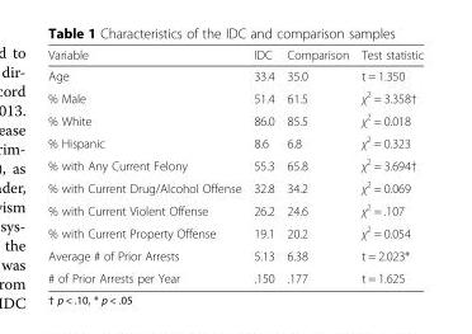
<table><thead><tr><td>Variable</td><td>IDC</td><td>Comparison</td><td>Test statistic</td></tr></thead><tbody><tr><td>Age</td><td>33.4</td><td>35.0</td><td>t = 1.350</td></tr><tr><td>% Male</td><td>51.4</td><td>61.5</td><td>χ<sup>2</sup> = 3.358†</td></tr><tr><td>% White</td><td>86.0</td><td>85.5</td><td>χ<sup>2</sup> = 0.018</td></tr><tr><td>% Hispanic</td><td>8.6</td><td>6.8</td><td>χ<sup>2</sup> = 0.323</td></tr><tr><td>% with Any Current Felony</td><td>55.3</td><td>65.8</td><td>χ<sup>2</sup> = 3.694†</td></tr><tr><td>% with Current Drug/Alcohol Offense</td><td>32.8</td><td>34.2</td><td>χ<sup>2</sup> = 0.069</td></tr><tr><td>% with Current Violent Offense</td><td>26.2</td><td>24.6</td><td>χ<sup>2</sup> = .107</td></tr><tr><td>% with Current Property Offense</td><td>19.1</td><td>20.2</td><td>χ<sup>2</sup> = 0.054</td></tr><tr><td>Average # of Prior Arrests</td><td>5.13</td><td>6.38</td><td>t = 2.023*</td></tr><tr><td># of Prior Arrests per Year</td><td>.150</td><td>.177</td><td>t = 1.625</td></tr></tbody></table>